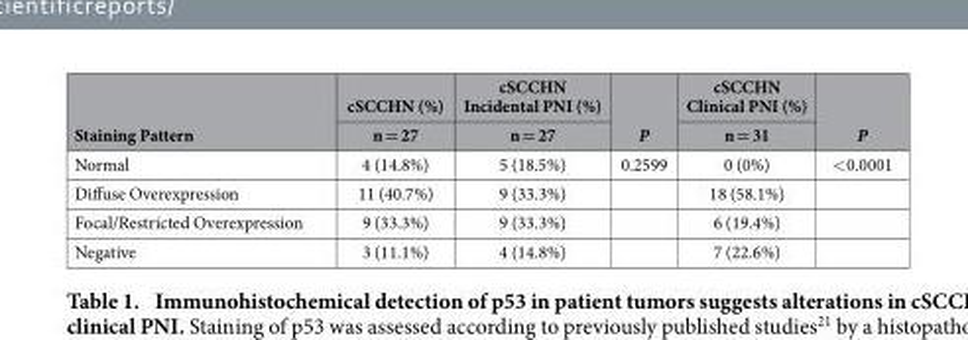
<table><thead><tr><td rowspan="2">Staining Pattern</td><td rowspan="2">cSCCHN (%) n = 27</td><td rowspan="2">cSCCHN Incidental PNI (%) n = 27</td><td rowspan="2">P</td><td rowspan="2">cSCCHN Clinical PNI (%) n = 31</td><td rowspan="2">P</td></tr><tr></tr></thead><tbody><tr><td>Normal</td><td>4 (14.8%)</td><td>5 (18.5%)</td><td>0.2599</td><td>0 (0%)</td><td>&lt; 0.0001</td></tr><tr><td>Diffuse Overexpression</td><td>11 (40.7%)</td><td>9 (33.3%)</td><td></td><td>18 (58.1%)</td><td></td></tr><tr><td>Focal/Restricted Overexpression</td><td>9 (33.3%)</td><td>9 (33.3%)</td><td></td><td>6 (19.4%)</td><td></td></tr><tr><td>Negative</td><td>3 (11.1%)</td><td>4 (14.8%)</td><td></td><td>7 (22.6%)</td><td></td></tr></tbody></table>